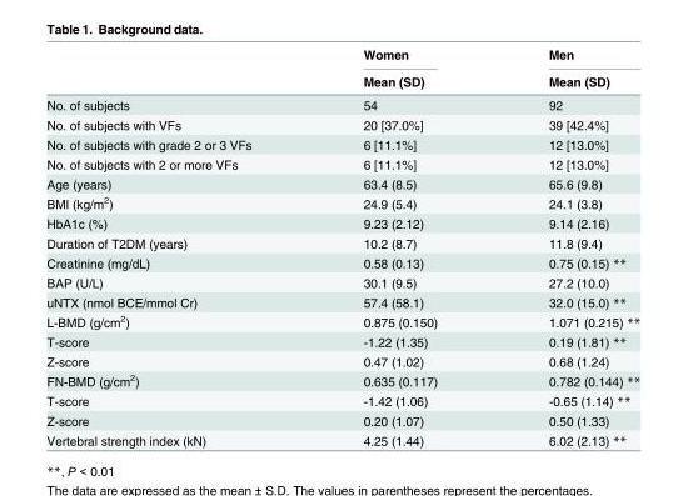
<table><thead><tr><td rowspan="2"></td><td rowspan="2">Women Mean (SD)</td><td rowspan="2">Men Mean (SD)</td></tr><tr></tr></thead><tbody><tr><td>No. of subjects</td><td>54</td><td>92</td></tr><tr><td>No. of subjects with VFs</td><td>20 [37.0%]</td><td>39 [42.4%]</td></tr><tr><td>No. of subjects with grade 2 or 3 VFs</td><td>6 [11.1%]</td><td>12 [13.0%]</td></tr><tr><td>No. of subjects with 2 or more VFs</td><td>6 [11.1%]</td><td>12 [13.0%]</td></tr><tr><td>Age (years)</td><td>63.4 (8.5)</td><td>65.6 (9.8)</td></tr><tr><td>BMI (kg/m<sup>2</sup>)</td><td>24.9 (5.4)</td><td>24.1 (3.8)</td></tr><tr><td>HbA1c (%)</td><td>9.23 (2.12)</td><td>9.14 (2.16)</td></tr><tr><td>Duration of T2DM (years)</td><td>10.2 (8.7)</td><td>11.8 (9.4)</td></tr><tr><td>Creatinine (mg/dL)</td><td>0.58 (0.13)</td><td>0.75 (0.15) **</td></tr><tr><td>BAP (U/L)</td><td>30.1 (9.5)</td><td>27.2 (10.0)</td></tr><tr><td>uNTX (nmol BCE/mmol Cr)</td><td>57.4 (58.1)</td><td>32.0 (15.0) **</td></tr><tr><td>L-BMD (g/cm<sup>2</sup>)</td><td>0.875 (0.150)</td><td>1.071 (0.215) **</td></tr><tr><td>T-score</td><td>-1.22 (1.35)</td><td>0.19 (1.81) **</td></tr><tr><td>Z-score</td><td>0.47 (1.02)</td><td>0.68 (1.24)</td></tr><tr><td>FN-BMD (g/cm<sup>2</sup>)</td><td>0.635 (0.117)</td><td>0.782 (0.144) **</td></tr><tr><td>T-score</td><td>-1.42 (1.06)</td><td>-0.65 (1.14) **</td></tr><tr><td>Z-score</td><td>0.20 (1.07)</td><td>0.50 (1.33)</td></tr><tr><td>Vertebral strength index (kN)</td><td>4.25 (1.44)</td><td>6.02 (2.13) **</td></tr></tbody></table>